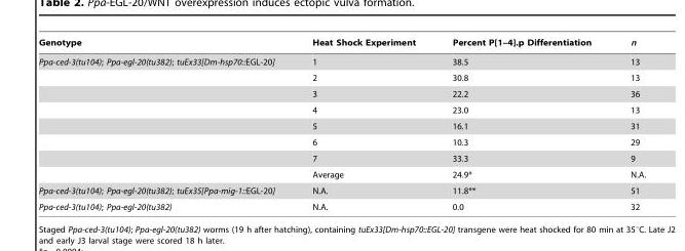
<table><thead><tr><td>Genotype</td><td>Heat Shock Experiment</td><td>Percent P[1–4].p Differentiation</td><td>n</td></tr></thead><tbody><tr><td rowspan="8">Ppa-ced-3(tu104); Ppa-egl-20(tu382); tuEx33[Dm-hsp70::EGL-20]</td><td>1</td><td>38.5</td><td>13</td></tr><tr><td>2</td><td>30.8</td><td>13</td></tr><tr><td>3</td><td>22.2</td><td>36</td></tr><tr><td>4</td><td>23.0</td><td>13</td></tr><tr><td>5</td><td>16.1</td><td>31</td></tr><tr><td>6</td><td>10.3</td><td>29</td></tr><tr><td>7</td><td>33.3</td><td>9</td></tr><tr><td>Average</td><td>24.9*</td><td>N.A.</td></tr><tr><td>Ppa-ced-3(tu104); Ppa-egl-20(tu382); tuEx35[Ppa-mig-1::EGL-20]</td><td>N.A.</td><td>11.8**</td><td>51</td></tr><tr><td>Ppa-ced-3(tu104); Ppa-egl-20(tu382)</td><td>N.A.</td><td>0.0</td><td>32</td></tr></tbody></table>